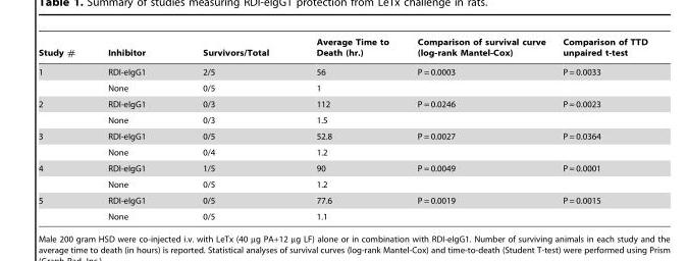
<table><thead><tr><td>Study #</td><td>Inhibitor</td><td>Survivors/Total</td><td>Average Time to Death (hr.)</td><td>Comparison of survival curve (log-rank Mantel-Cox)</td><td>Comparison of TTD unpaired t-test</td></tr></thead><tbody><tr><td rowspan="2">1</td><td>RDI-eIgG1</td><td>2/5</td><td>56</td><td>P = 0.0003</td><td>P = 0.0033</td></tr><tr><td>None</td><td>0/5</td><td>1</td><td></td><td></td></tr><tr><td rowspan="2">2</td><td>RDI-eIgG1</td><td>0/3</td><td>112</td><td>P = 0.0246</td><td>P = 0.0023</td></tr><tr><td>None</td><td>0/3</td><td>1.5</td><td></td><td></td></tr><tr><td rowspan="2">3</td><td>RDI-eIgG1</td><td>0/5</td><td>52.8</td><td>P = 0.0027</td><td>P = 0.0364</td></tr><tr><td>None</td><td>0/4</td><td>1.2</td><td></td><td></td></tr><tr><td rowspan="2">4</td><td>RDI-eIgG1</td><td>1/5</td><td>90</td><td>P = 0.0049</td><td>P = 0.0001</td></tr><tr><td>None</td><td>0/5</td><td>1.2</td><td></td><td></td></tr><tr><td rowspan="2">5</td><td>RDI-eIgG1</td><td>0/5</td><td>77.6</td><td>P = 0.0019</td><td>P = 0.0015</td></tr><tr><td>None</td><td>0/5</td><td>1.1</td><td></td><td></td></tr></tbody></table>